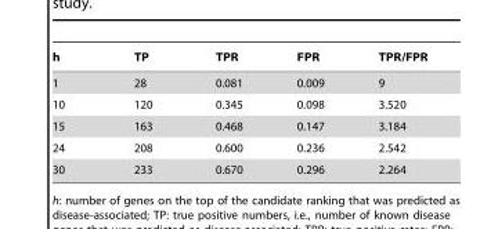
<table><thead><tr><td>h</td><td>TP</td><td>TPR</td><td>FPR</td><td>TPR/FPR</td></tr></thead><tbody><tr><td>1</td><td>28</td><td>0.081</td><td>0.009</td><td>9</td></tr><tr><td>10</td><td>120</td><td>0.345</td><td>0.098</td><td>3.520</td></tr><tr><td>15</td><td>163</td><td>0.468</td><td>0.147</td><td>3.184</td></tr><tr><td>24</td><td>208</td><td>0.600</td><td>0.236</td><td>2.542</td></tr><tr><td>30</td><td>233</td><td>0.670</td><td>0.296</td><td>2.264</td></tr></tbody></table>